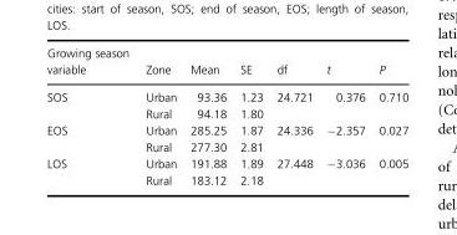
<table><thead><tr><td>Growing season variable</td><td>Zone</td><td>Mean</td><td>SE</td><td>df</td><td>t</td><td>P</td></tr></thead><tbody><tr><td rowspan="2">SOS</td><td>Urban</td><td>93.36</td><td>1.23</td><td rowspan="2">24.721</td><td rowspan="2">0.376</td><td rowspan="2">0.710</td></tr><tr><td>Rural</td><td>94.18</td><td>1.80</td></tr><tr><td rowspan="2">EOS</td><td>Urban</td><td>285.25</td><td>1.87</td><td rowspan="2">24.336</td><td rowspan="2">−2.357</td><td rowspan="2">0.027</td></tr><tr><td>Rural</td><td>277.30</td><td>2.81</td></tr><tr><td rowspan="2">LOS</td><td>Urban</td><td>191.88</td><td>1.89</td><td rowspan="2">27.448</td><td rowspan="2">−3.036</td><td rowspan="2">0.005</td></tr><tr><td>Rural</td><td>183.12</td><td>2.18</td></tr></tbody></table>